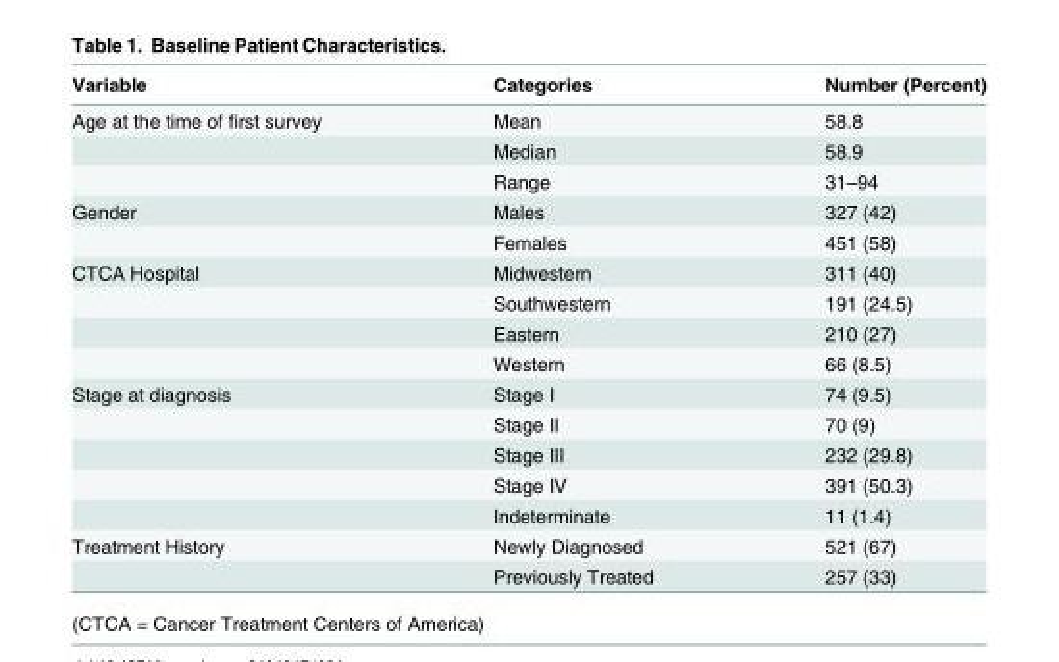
<table><thead><tr><td>Variable</td><td>Categories</td><td>Number (Percent)</td></tr></thead><tbody><tr><td rowspan="3">Age at the time of first survey</td><td>Mean</td><td>58.8</td></tr><tr><td>Median</td><td>58.9</td></tr><tr><td>Range</td><td>31–94</td></tr><tr><td rowspan="2">Gender</td><td>Males</td><td>327 (42)</td></tr><tr><td>Females</td><td>451 (58)</td></tr><tr><td rowspan="4">CTCA Hospital</td><td>Midwestern</td><td>311 (40)</td></tr><tr><td>Southwestern</td><td>191 (24.5)</td></tr><tr><td>Eastern</td><td>210 (27)</td></tr><tr><td>Western</td><td>66 (8.5)</td></tr><tr><td rowspan="5">Stage at diagnosis</td><td>Stage I</td><td>74 (9.5)</td></tr><tr><td>Stage II</td><td>70 (9)</td></tr><tr><td>Stage III</td><td>232 (29.8)</td></tr><tr><td>Stage IV</td><td>391 (50.3)</td></tr><tr><td>Indeterminate</td><td>11 (1.4)</td></tr><tr><td rowspan="2">Treatment History</td><td>Newly Diagnosed</td><td>521 (67)</td></tr><tr><td>Previously Treated</td><td>257 (33)</td></tr></tbody></table>